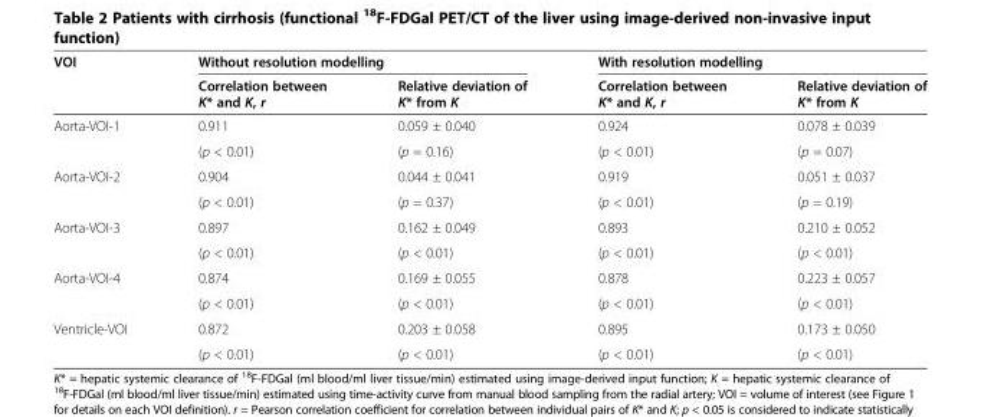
<table><thead><tr><td rowspan="2">VOI</td><td colspan="2">Without resolution modelling</td><td colspan="2">With resolution modelling</td></tr><tr><td>Correlation between K* and K, r</td><td>Relative deviation of K* from K</td><td>Correlation between K* and K, r</td><td>Relative deviation of K* from K</td></tr></thead><tbody><tr><td rowspan="2">Aorta-VOI-1</td><td>0.911</td><td>0.059 ± 0.040</td><td>0.924</td><td>0.078 ± 0.039</td></tr><tr><td>(p &lt; 0.01)</td><td>(p = 0.16)</td><td>(p &lt; 0.01)</td><td>(p = 0.07)</td></tr><tr><td rowspan="2">Aorta-VOI-2</td><td>0.904</td><td>0.044 ± 0.041</td><td>0.919</td><td>0.051 ± 0.037</td></tr><tr><td>(p &lt; 0.01)</td><td>(p = 0.37)</td><td>(p &lt; 0.01)</td><td>(p = 0.19)</td></tr><tr><td rowspan="2">Aorta-VOI-3</td><td>0.897</td><td>0.162 ± 0.049</td><td>0.893</td><td>0.210 ± 0.052</td></tr><tr><td>(p &lt; 0.01)</td><td>(p &lt; 0.01)</td><td>(p &lt; 0.01)</td><td>(p &lt; 0.01)</td></tr><tr><td rowspan="2">Aorta-VOI-4</td><td>0.874</td><td>0.169 ± 0.055</td><td>0.878</td><td>0.223 ± 0.057</td></tr><tr><td>(p &lt; 0.01)</td><td>(p &lt; 0.01)</td><td>(p &lt; 0.01)</td><td>(p &lt; 0.01)</td></tr><tr><td rowspan="2">Ventricle-VOI</td><td>0.872</td><td>0.203 ± 0.058</td><td>0.895</td><td>0.173 ± 0.050</td></tr><tr><td>(p &lt; 0.01)</td><td>(p &lt; 0.01)</td><td>(p &lt; 0.01)</td><td>(p &lt; 0.01)</td></tr></tbody></table>